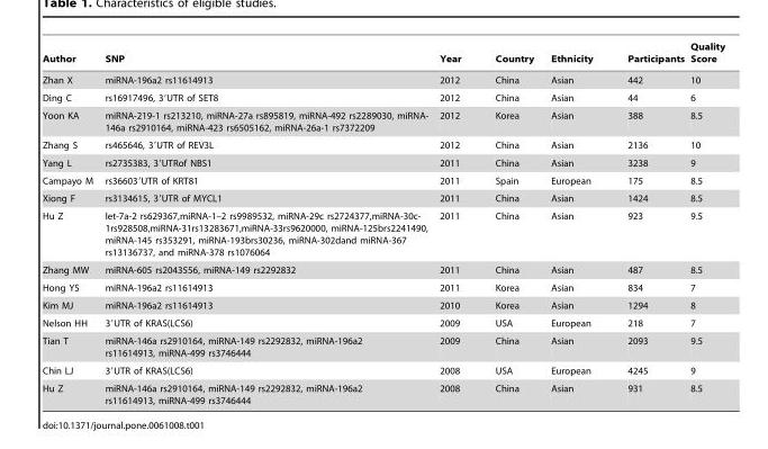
<table><thead><tr><td>Author</td><td>SNP</td><td>Year</td><td>Country</td><td>Ethnicity</td><td>Participants</td><td>Quality Score</td></tr></thead><tbody><tr><td>Zhan X</td><td>miRNA-196a2 rs11614913</td><td>2012</td><td>China</td><td>Asian</td><td>442</td><td>10</td></tr><tr><td>Ding C</td><td>rs16917496, 3′UTR of SET8</td><td>2012</td><td>China</td><td>Asian</td><td>44</td><td>6</td></tr><tr><td>Yoon KA</td><td>miRNA-219-1 rs213210, miRNA-27a rs895819, miRNA-492 rs2289030, miRNA- 146a rs2910164, miRNA-423 rs6505162, miRNA-26a-1 rs7372209</td><td>2012</td><td>Korea</td><td>Asian</td><td>388</td><td>8.5</td></tr><tr><td>Zhang S</td><td>rs465646, 3′UTR of REV3L</td><td>2012</td><td>China</td><td>Asian</td><td>2136</td><td>10</td></tr><tr><td>Yang L</td><td>rs2735383, 3′UTRof NBS1</td><td>2011</td><td>China</td><td>Asian</td><td>3238</td><td>9</td></tr><tr><td>Campayo M</td><td>rs36603′UTR of KRT81</td><td>2011</td><td>Spain</td><td>European</td><td>175</td><td>8.5</td></tr><tr><td>Xiong F</td><td>rs3134615, 3′UTR of MYCL1</td><td>2011</td><td>China</td><td>Asian</td><td>1424</td><td>8.5</td></tr><tr><td>Hu Z</td><td>let-7a-2 rs629367,miRNA-1–2 rs9989532, miRNA-29c rs2724377,miRNA-30c- 1rs928508,miRNA-31rs13283671,miRNA-33rs9620000, miRNA-125brs2241490, miRNA-145 rs353291, miRNA-193brs30236, miRNA-302dand miRNA-367 rs13136737, and miRNA-378 rs1076064</td><td>2011</td><td>China</td><td>Asian</td><td>923</td><td>9.5</td></tr><tr><td>Zhang MW</td><td>miRNA-605 rs2043556, miRNA-149 rs2292832</td><td>2011</td><td>China</td><td>Asian</td><td>487</td><td>8.5</td></tr><tr><td>Hong YS</td><td>miRNA-196a2 rs11614913</td><td>2011</td><td>Korea</td><td>Asian</td><td>834</td><td>7</td></tr><tr><td>Kim MJ</td><td>miRNA-196a2 rs11614913</td><td>2010</td><td>Korea</td><td>Asian</td><td>1294</td><td>8</td></tr><tr><td>Nelson HH</td><td>3′UTR of KRAS(LCS6)</td><td>2009</td><td>USA</td><td>European</td><td>218</td><td>7</td></tr><tr><td>Tian T</td><td>miRNA-146a rs2910164, miRNA-149 rs2292832, miRNA-196a2 rs11614913, miRNA-499 rs3746444</td><td>2009</td><td>China</td><td>Asian</td><td>2093</td><td>9.5</td></tr><tr><td>Chin LJ</td><td>3′UTR of KRAS(LCS6)</td><td>2008</td><td>USA</td><td>European</td><td>4245</td><td>9</td></tr><tr><td>Hu Z</td><td>miRNA-146a rs2910164, miRNA-149 rs2292832, miRNA-196a2 rs11614913, miRNA-499 rs3746444</td><td>2008</td><td>China</td><td>Asian</td><td>931</td><td>8.5</td></tr></tbody></table>